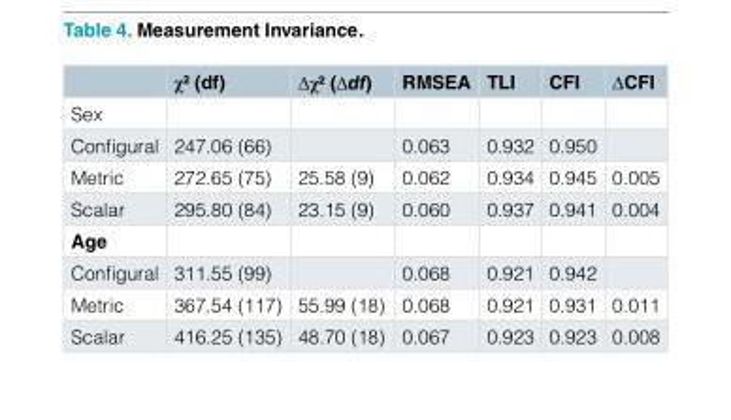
<table><thead><tr><td></td><td>χ² (df)</td><td>∆χ² (∆df)</td><td>RMSEA</td><td>TLI</td><td>CFI</td><td>∆CFI</td></tr></thead><tbody><tr><td colspan="7">Sex</td></tr><tr><td>Configural</td><td>247.06 (66)</td><td></td><td>0.063</td><td>0.932</td><td>0.950</td><td></td></tr><tr><td>Metric</td><td>272.65 (75)</td><td>25.58 (9)</td><td>0.062</td><td>0.934</td><td>0.945</td><td>0.005</td></tr><tr><td>Scalar</td><td>295.80 (84)</td><td>23.15 (9)</td><td>0.060</td><td>0.937</td><td>0.941</td><td>0.004</td></tr><tr><td colspan="7">Age</td></tr><tr><td>Configural</td><td>311.55 (99)</td><td></td><td>0.068</td><td>0.921</td><td>0.942</td><td></td></tr><tr><td>Metric</td><td>367.54 (117)</td><td>55.99 (18)</td><td>0.068</td><td>0.921</td><td>0.931</td><td>0.011</td></tr><tr><td>Scalar</td><td>416.25 (135)</td><td>48.70 (18)</td><td>0.067</td><td>0.923</td><td>0.923</td><td>0.008</td></tr></tbody></table>